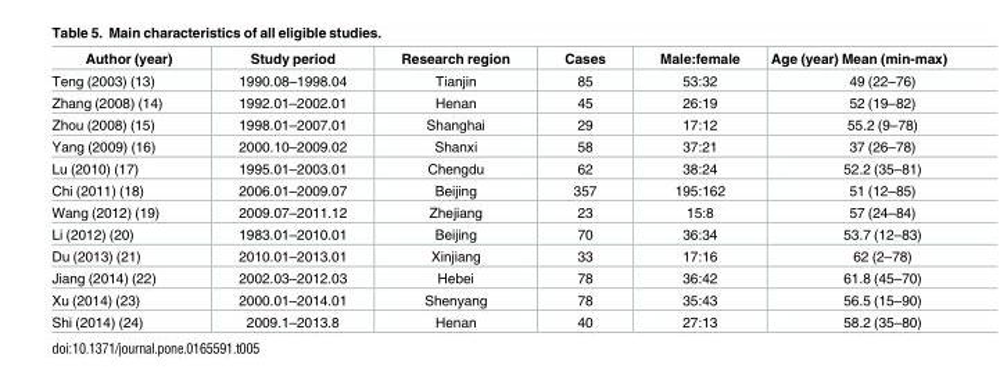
<table><thead><tr><td>Author (year)</td><td>Study period</td><td>Research region</td><td>Cases</td><td>Male:female</td><td>Age (year) Mean (min-max)</td></tr></thead><tbody><tr><td>Teng (2003) (13)</td><td>1990.08–1998.04</td><td>Tianjin</td><td>85</td><td>53:32</td><td>49 (22–76)</td></tr><tr><td>Zhang (2008) (14)</td><td>1992.01–2002.01</td><td>Henan</td><td>45</td><td>26:19</td><td>52 (19–82)</td></tr><tr><td>Zhou (2008) (15)</td><td>1998.01–2007.01</td><td>Shanghai</td><td>29</td><td>17:12</td><td>55.2 (9–78)</td></tr><tr><td>Yang (2009) (16)</td><td>2000.10–2009.02</td><td>Shanxi</td><td>58</td><td>37:21</td><td>37 (26–78)</td></tr><tr><td>Lu (2010) (17)</td><td>1995.01–2003.01</td><td>Chengdu</td><td>62</td><td>38:24</td><td>52.2 (35–81)</td></tr><tr><td>Chi (2011) (18)</td><td>2006.01–2009.07</td><td>Beijing</td><td>357</td><td>195:162</td><td>51 (12–85)</td></tr><tr><td>Wang (2012) (19)</td><td>2009.07–2011.12</td><td>Zhejiang</td><td>23</td><td>15:8</td><td>57 (24–84)</td></tr><tr><td>Li (2012) (20)</td><td>1983.01–2010.01</td><td>Beijing</td><td>70</td><td>36:34</td><td>53.7 (12–83)</td></tr><tr><td>Du (2013) (21)</td><td>2010.01–2013.01</td><td>Xinjiang</td><td>33</td><td>17:16</td><td>62 (2–78)</td></tr><tr><td>Jiang (2014) (22)</td><td>2002.03–2012.03</td><td>Hebei</td><td>78</td><td>36:42</td><td>61.8 (45–70)</td></tr><tr><td>Xu (2014) (23)</td><td>2000.01–2014.01</td><td>Shenyang</td><td>78</td><td>35:43</td><td>56.5 (15–90)</td></tr><tr><td>Shi (2014) (24)</td><td>2009.1–2013.8</td><td>Henan</td><td>40</td><td>27:13</td><td>58.2 (35–80)</td></tr></tbody></table>